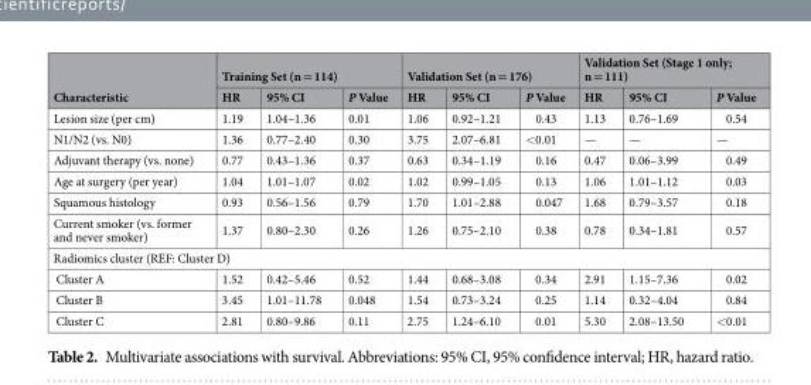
<table><thead><tr><td rowspan="2">Characteristic</td><td colspan="3">Training Set (n = 114)</td><td colspan="3">Validation Set (n = 176)</td><td colspan="3">Validation Set (Stage 1 only; n = 111)</td></tr><tr><td>HR</td><td>95% CI</td><td>P Value</td><td>HR</td><td>95% CI</td><td>P Value</td><td>HR</td><td>95% CI</td><td>P Value</td></tr></thead><tbody><tr><td>Lesion size (per cm)</td><td>1.19</td><td>1.04–1.36</td><td>0.01</td><td>1.06</td><td>0.92–1.21</td><td>0.43</td><td>1.13</td><td>0.76–1.69</td><td>0.54</td></tr><tr><td>N1/N2 (vs. N0)</td><td>1.36</td><td>0.77–2.40</td><td>0.30</td><td>3.75</td><td>2.07–6.81</td><td>&lt;0.01</td><td>—</td><td>—</td><td>—</td></tr><tr><td>Adjuvant therapy (vs. none)</td><td>0.77</td><td>0.43–1.36</td><td>0.37</td><td>0.63</td><td>0.34–1.19</td><td>0.16</td><td>0.47</td><td>0.06–3.99</td><td>0.49</td></tr><tr><td>Age at surgery (per year)</td><td>1.04</td><td>1.01–1.07</td><td>0.02</td><td>1.02</td><td>0.99–1.05</td><td>0.13</td><td>1.06</td><td>1.01–1.12</td><td>0.03</td></tr><tr><td>Squamous histology</td><td>0.93</td><td>0.56–1.56</td><td>0.79</td><td>1.70</td><td>1.01–2.88</td><td>0.047</td><td>1.68</td><td>0.79–3.57</td><td>0.18</td></tr><tr><td>Current smoker (vs. former and never smoker)</td><td>1.37</td><td>0.80–2.30</td><td>0.26</td><td>1.26</td><td>0.75–2.10</td><td>0.38</td><td>0.78</td><td>0.34–1.81</td><td>0.57</td></tr><tr><td colspan="10">Radiomics cluster (REF: Cluster D)</td></tr><tr><td>Cluster A</td><td>1.52</td><td>0.42–5.46</td><td>0.52</td><td>1.44</td><td>0.68–3.08</td><td>0.34</td><td>2.91</td><td>1.15–7.36</td><td>0.02</td></tr><tr><td>Cluster B</td><td>3.45</td><td>1.01–11.78</td><td>0.048</td><td>1.54</td><td>0.73–3.24</td><td>0.25</td><td>1.14</td><td>0.32–4.04</td><td>0.84</td></tr><tr><td>Cluster C</td><td>2.81</td><td>0.80–9.86</td><td>0.11</td><td>2.75</td><td>1.24–6.10</td><td>0.01</td><td>5.30</td><td>2.08–13.50</td><td>&lt;0.01</td></tr></tbody></table>